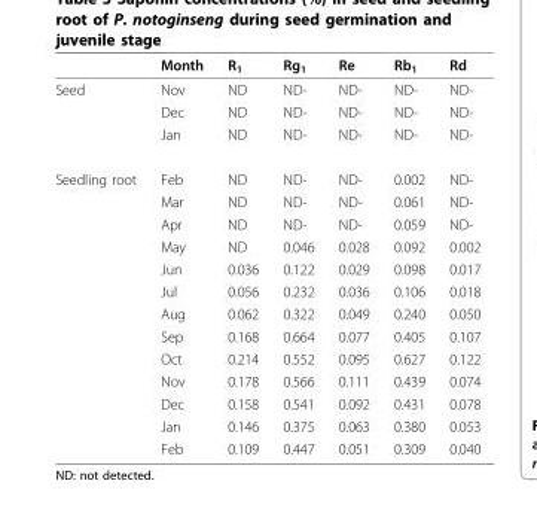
<table><thead><tr><td></td><td>Month</td><td>R<sub>1</sub></td><td>Rg<sub>1</sub></td><td>Re</td><td>Rb<sub>1</sub></td><td>Rd</td></tr></thead><tbody><tr><td rowspan="3">Seed</td><td>Nov</td><td>ND</td><td>ND-</td><td>ND-</td><td>ND-</td><td>ND-</td></tr><tr><td>Dec</td><td>ND</td><td>ND-</td><td>ND-</td><td>ND-</td><td>ND-</td></tr><tr><td>Jan</td><td>ND</td><td>ND-</td><td>ND-</td><td>ND-</td><td>ND-</td></tr><tr><td rowspan="13">Seedling root</td><td>Feb</td><td>ND</td><td>ND-</td><td>ND-</td><td>0.002</td><td>ND-</td></tr><tr><td>Mar</td><td>ND</td><td>ND-</td><td>ND-</td><td>0.061</td><td>ND-</td></tr><tr><td>Apr</td><td>ND</td><td>ND-</td><td>ND-</td><td>0.059</td><td>ND-</td></tr><tr><td>May</td><td>ND</td><td>0.046</td><td>0.028</td><td>0.092</td><td>0.002</td></tr><tr><td>Jun</td><td>0.036</td><td>0.122</td><td>0.029</td><td>0.098</td><td>0.017</td></tr><tr><td>Jul</td><td>0.056</td><td>0.232</td><td>0.036</td><td>0.106</td><td>0.018</td></tr><tr><td>Aug</td><td>0.062</td><td>0.322</td><td>0.049</td><td>0.240</td><td>0.050</td></tr><tr><td>Sep</td><td>0.168</td><td>0.664</td><td>0.077</td><td>0.405</td><td>0.107</td></tr><tr><td>Oct</td><td>0.214</td><td>0.552</td><td>0.095</td><td>0.627</td><td>0.122</td></tr><tr><td>Nov</td><td>0.178</td><td>0.566</td><td>0.111</td><td>0.439</td><td>0.074</td></tr><tr><td>Dec</td><td>0.158</td><td>0.541</td><td>0.092</td><td>0.431</td><td>0.078</td></tr><tr><td>Jan</td><td>0.146</td><td>0.375</td><td>0.063</td><td>0.380</td><td>0.053</td></tr><tr><td>Feb</td><td>0.109</td><td>0.447</td><td>0.051</td><td>0.309</td><td>0.040</td></tr></tbody></table>